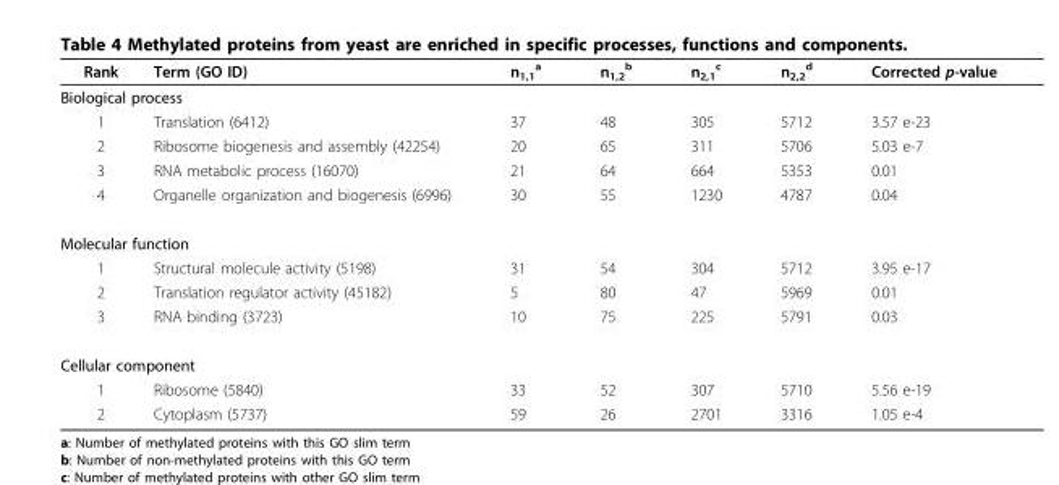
<table><thead><tr><td>Rank</td><td>Term (GO ID)</td><td>n<sub>1,1</sub> <sup>a</sup></td><td>n<sub>1,2</sub> <sup>b</sup></td><td>n<sub>2,1</sub> <sup>c</sup></td><td>n<sub>2,2</sub> <sup>d</sup></td><td>Corrected p-value</td></tr></thead><tbody><tr><td colspan="7">Biological process</td></tr><tr><td>1</td><td>Translation (6412)</td><td>37</td><td>48</td><td>305</td><td>5712</td><td>3.57 e-23</td></tr><tr><td>2</td><td>Ribosome biogenesis and assembly (42254)</td><td>20</td><td>65</td><td>311</td><td>5706</td><td>5.03 e-7</td></tr><tr><td>3</td><td>RNA metabolic process (16070)</td><td>21</td><td>64</td><td>664</td><td>5353</td><td>0.01</td></tr><tr><td>4</td><td>Organelle organization and biogenesis (6996)</td><td>30</td><td>55</td><td>1230</td><td>4787</td><td>0.04</td></tr><tr><td colspan="7">Molecular function</td></tr><tr><td>1</td><td>Structural molecule activity (5198)</td><td>31</td><td>54</td><td>304</td><td>5712</td><td>3.95 e-17</td></tr><tr><td>2</td><td>Translation regulator activity (45182)</td><td>5</td><td>80</td><td>47</td><td>5969</td><td>0.01</td></tr><tr><td>3</td><td>RNA binding (3723)</td><td>10</td><td>75</td><td>225</td><td>5791</td><td>0.03</td></tr><tr><td colspan="7">Cellular component</td></tr><tr><td>1</td><td>Ribosome (5840)</td><td>33</td><td>52</td><td>307</td><td>5710</td><td>5.56 e-19</td></tr><tr><td>2</td><td>Cytoplasm (5737)</td><td>59</td><td>26</td><td>2701</td><td>3316</td><td>1.05 e-4</td></tr></tbody></table>